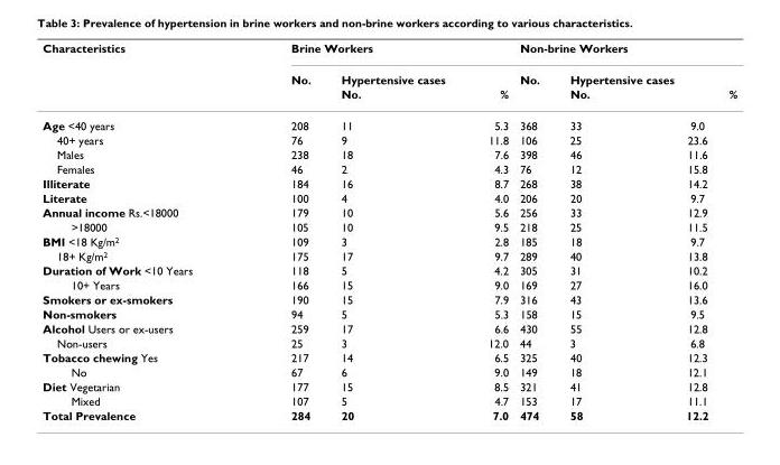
<table><thead><tr><td rowspan="3">Characteristics</td><td colspan="3">Brine Workers</td><td colspan="3">Non-brine Workers</td></tr><tr><td rowspan="2">No.</td><td colspan="2">Hypertensive cases</td><td rowspan="2">No.</td><td colspan="2">Hypertensive cases</td></tr><tr><td>No.</td><td>%</td><td>No.</td><td>%</td></tr></thead><tbody><tr><td>Age &lt;40 years</td><td>208</td><td>11</td><td>5.3</td><td>368</td><td>33</td><td>9.0</td></tr><tr><td>40+ years</td><td>76</td><td>9</td><td>11.8</td><td>106</td><td>25</td><td>23.6</td></tr><tr><td>Males</td><td>238</td><td>18</td><td>7.6</td><td>398</td><td>46</td><td>11.6</td></tr><tr><td>Females</td><td>46</td><td>2</td><td>4.3</td><td>76</td><td>12</td><td>15.8</td></tr><tr><td>Illiterate</td><td>184</td><td>16</td><td>8.7</td><td>268</td><td>38</td><td>14.2</td></tr><tr><td>Literate</td><td>100</td><td>4</td><td>4.0</td><td>206</td><td>20</td><td>9.7</td></tr><tr><td>Annual income Rs.&lt;18000</td><td>179</td><td>10</td><td>5.6</td><td>256</td><td>33</td><td>12.9</td></tr><tr><td>&gt;18000</td><td>105</td><td>10</td><td>9.5</td><td>218</td><td>25</td><td>11.5</td></tr><tr><td>BMI &lt;18 Kg/m<sup>2</sup></td><td>109</td><td>3</td><td>2.8</td><td>185</td><td>18</td><td>9.7</td></tr><tr><td>18+ Kg/m<sup>2</sup></td><td>175</td><td>17</td><td>9.7</td><td>289</td><td>40</td><td>13.8</td></tr><tr><td>Duration of Work &lt;10 Years</td><td>118</td><td>5</td><td>4.2</td><td>305</td><td>31</td><td>10.2</td></tr><tr><td>10+ Years</td><td>166</td><td>15</td><td>9.0</td><td>169</td><td>27</td><td>16.0</td></tr><tr><td>Smokers or ex-smokers</td><td>190</td><td>15</td><td>7.9</td><td>316</td><td>43</td><td>13.6</td></tr><tr><td>Non-smokers</td><td>94</td><td>5</td><td>5.3</td><td>158</td><td>15</td><td>9.5</td></tr><tr><td>Alcohol Users or ex-users</td><td>259</td><td>17</td><td>6.6</td><td>430</td><td>55</td><td>12.8</td></tr><tr><td>Non-users</td><td>25</td><td>3</td><td>12.0</td><td>44</td><td>3</td><td>6.8</td></tr><tr><td>Tobacco chewing Yes</td><td>217</td><td>14</td><td>6.5</td><td>325</td><td>40</td><td>12.3</td></tr><tr><td>No</td><td>67</td><td>6</td><td>9.0</td><td>149</td><td>18</td><td>12.1</td></tr><tr><td>Diet Vegetarian</td><td>177</td><td>15</td><td>8.5</td><td>321</td><td>41</td><td>12.8</td></tr><tr><td>Mixed</td><td>107</td><td>5</td><td>4.7</td><td>153</td><td>17</td><td>11.1</td></tr><tr><td>Total Prevalence</td><td>284</td><td>20</td><td>7.0</td><td>474</td><td>58</td><td>12.2</td></tr></tbody></table>